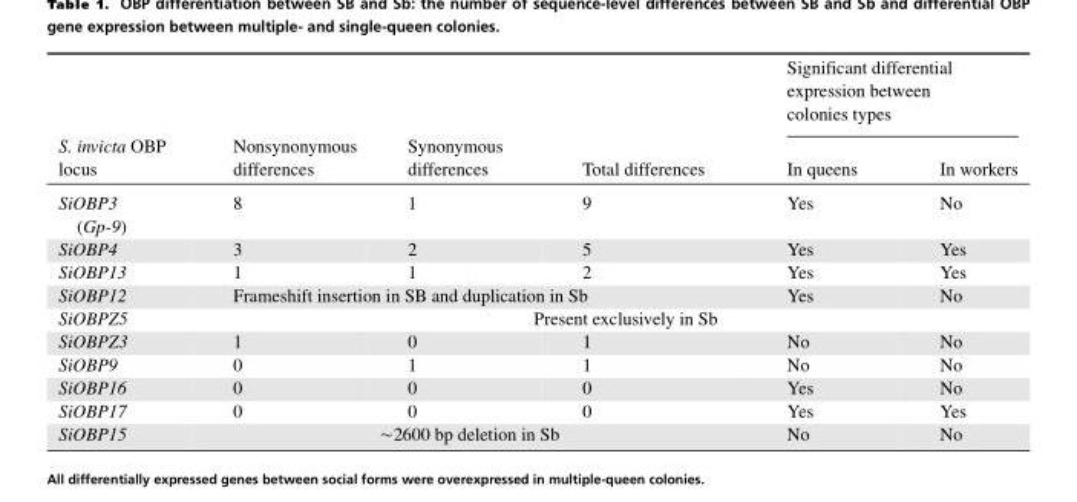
<table><thead><tr><td rowspan="2">S. invicta OBP locus</td><td rowspan="2">Nonsynonymous differences</td><td rowspan="2">Synonymous differences</td><td rowspan="2">Total differences</td><td colspan="2">Significant differential expression between colonies types</td></tr><tr><td>In queens</td><td>In workers</td></tr></thead><tbody><tr><td>SiOBP3 (Gp-9)</td><td>8</td><td>1</td><td>9</td><td>Yes</td><td>No</td></tr><tr><td>SiOBP4</td><td>3</td><td>2</td><td>5</td><td>Yes</td><td>Yes</td></tr><tr><td>SiOBP13</td><td>1</td><td>1</td><td>2</td><td>Yes</td><td>Yes</td></tr><tr><td>SiOBP12</td><td colspan="3">Frameshift insertion in SB and duplication in Sb</td><td>Yes</td><td>No</td></tr><tr><td>SiOBPZ5</td><td colspan="5">Present exclusively in Sb</td></tr><tr><td>SiOBPZ3</td><td>1</td><td>0</td><td>1</td><td>No</td><td>No</td></tr><tr><td>SiOBP9</td><td>0</td><td>1</td><td>1</td><td>No</td><td>No</td></tr><tr><td>SiOBP16</td><td>0</td><td>0</td><td>0</td><td>Yes</td><td>No</td></tr><tr><td>SiOBP17</td><td>0</td><td>0</td><td>0</td><td>Yes</td><td>Yes</td></tr><tr><td>SiOBP15</td><td colspan="3">∼2600 bp deletion in Sb</td><td>No</td><td>No</td></tr></tbody></table>